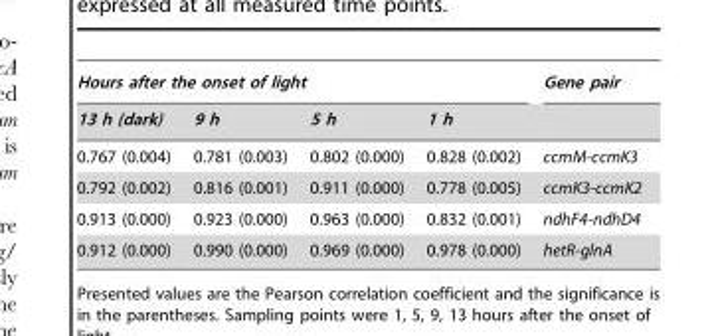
<table><thead><tr><td colspan="4">Hours after the onset of light</td><td rowspan="2">Gene pair</td></tr><tr><td>13 h (dark)</td><td>9 h</td><td>5 h</td><td>1 h</td></tr></thead><tbody><tr><td>0.767 (0.004)</td><td>0.781 (0.003)</td><td>0.802 (0.000)</td><td>0.828 (0.002)</td><td>ccmM-ccmK3</td></tr><tr><td>0.792 (0.002)</td><td>0.816 (0.001)</td><td>0.911 (0.000)</td><td>0.778 (0.005)</td><td>ccmK3-ccmK2</td></tr><tr><td>0.913 (0.000)</td><td>0.923 (0.000)</td><td>0.963 (0.000)</td><td>0.832 (0.001)</td><td>ndhF4-ndhD4</td></tr><tr><td>0.912 (0.000)</td><td>0.990 (0.000)</td><td>0.969 (0.000)</td><td>0.978 (0.000)</td><td>hetR-glnA</td></tr></tbody></table>